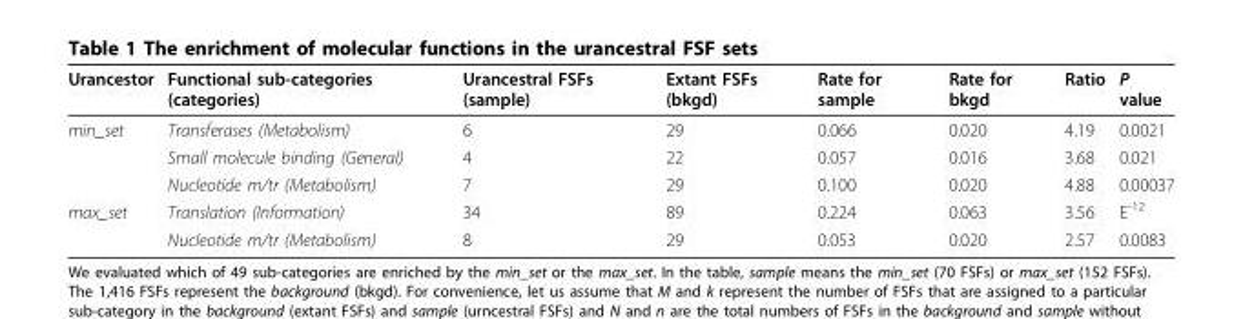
<table><thead><tr><td>Urancestor</td><td>Functional sub-categories (categories)</td><td>Urancestral FSFs (sample)</td><td>Extant FSFs (bkgd)</td><td>Rate for sample</td><td>Rate for bkgd</td><td>Ratio</td><td>P value</td></tr></thead><tbody><tr><td rowspan="3">min_set</td><td>Transferases (Metabolism)</td><td>6</td><td>29</td><td>0.066</td><td>0.020</td><td>4.19</td><td>0.0021</td></tr><tr><td>Small molecule binding (General)</td><td>4</td><td>22</td><td>0.057</td><td>0.016</td><td>3.68</td><td>0.021</td></tr><tr><td>Nucleotide m/tr (Metabolism)</td><td>7</td><td>29</td><td>0.100</td><td>0.020</td><td>4.88</td><td>0.00037</td></tr><tr><td rowspan="2">max_set</td><td>Translation (Information)</td><td>34</td><td>89</td><td>0.224</td><td>0.063</td><td>3.56</td><td>E<sup>-12</sup></td></tr><tr><td>Nucleotide m/tr (Metabolism)</td><td>8</td><td>29</td><td>0.053</td><td>0.020</td><td>2.57</td><td>0.0083</td></tr></tbody></table>